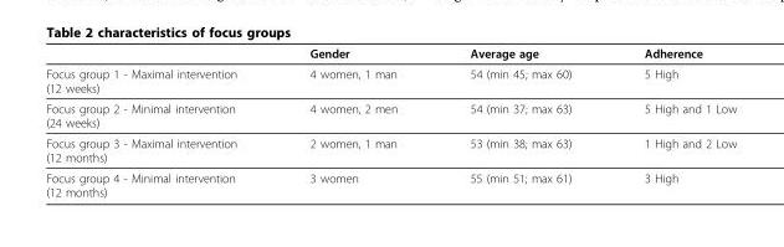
<table><thead><tr><td></td><td>Gender</td><td>Average age</td><td>Adherence</td></tr></thead><tbody><tr><td>Focus group 1 - Maximal intervention (12 weeks)</td><td>4 women, 1 man</td><td>54 (min 45; max 60)</td><td>5 High</td></tr><tr><td>Focus group 2 - Minimal intervention (24 weeks)</td><td>4 women, 2 men</td><td>54 (min 37; max 63)</td><td>5 High and 1 Low</td></tr><tr><td>Focus group 3 - Maximal intervention (12 months)</td><td>2 women, 1 man</td><td>53 (min 38; max 63)</td><td>1 High and 2 Low</td></tr><tr><td>Focus group 4 - Minimal intervention (12 months)</td><td>3 women</td><td>55 (min 51; max 61)</td><td>3 High</td></tr></tbody></table>